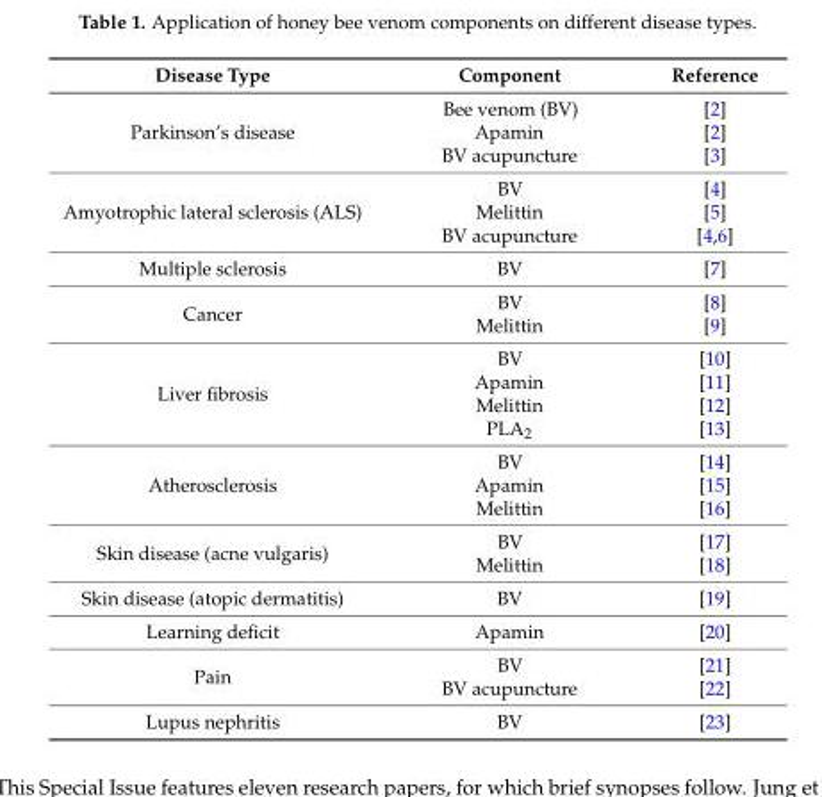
<table><thead><tr><td>Disease Type</td><td>Component</td><td>Reference</td></tr></thead><tbody><tr><td>Parkinson’s disease</td><td>Bee venom (BV) Apamin BV acupuncture</td><td>[2] [2] [3]</td></tr><tr><td>Amyotrophic lateral sclerosis (ALS)</td><td>BV Melittin BV acupuncture</td><td>[4] [5] [4,6]</td></tr><tr><td>Multiple sclerosis</td><td>BV</td><td>[7]</td></tr><tr><td>Cancer</td><td>BV Melittin</td><td>[8] [9]</td></tr><tr><td>Liver fibrosis</td><td>BV Apamin Melittin PLA<sub>2</sub></td><td>[10] [11] [12] [13]</td></tr><tr><td>Atherosclerosis</td><td>BV Apamin Melittin</td><td>[14] [15] [16]</td></tr><tr><td>Skin disease (acne vulgaris)</td><td>BV Melittin</td><td>[17] [18]</td></tr><tr><td>Skin disease (atopic dermatitis)</td><td>BV</td><td>[19]</td></tr><tr><td>Learning deficit</td><td>Apamin</td><td>[20]</td></tr><tr><td>Pain</td><td>BV BV acupuncture</td><td>[21] [22]</td></tr><tr><td>Lupus nephritis</td><td>BV</td><td>[23]</td></tr></tbody></table>